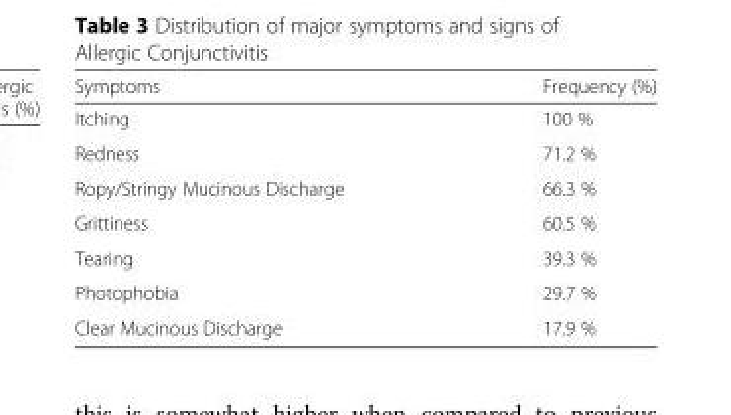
<table><thead><tr><td>Symptoms</td><td>Frequency (%)</td></tr></thead><tbody><tr><td>Itching</td><td>100 %</td></tr><tr><td>Redness</td><td>71.2 %</td></tr><tr><td>Ropy/Stringy Mucinous Discharge</td><td>66.3 %</td></tr><tr><td>Grittiness</td><td>60.5 %</td></tr><tr><td>Tearing</td><td>39.3 %</td></tr><tr><td>Photophobia</td><td>29.7 %</td></tr><tr><td>Clear Mucinous Discharge</td><td>17.9 %</td></tr></tbody></table>